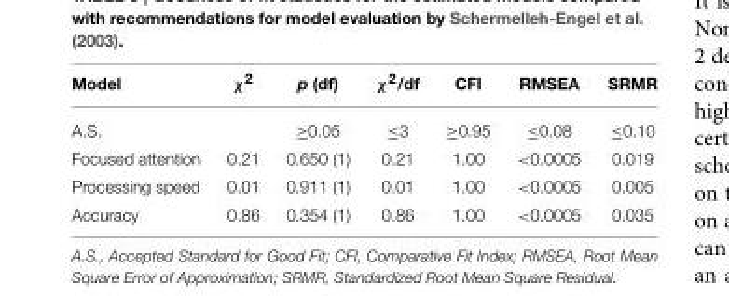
<table><thead><tr><td>Model</td><td>χ<sup>2</sup></td><td>p (df)</td><td>χ<sup>2</sup>/df</td><td>CFI</td><td>RMSEA</td><td>SRMR</td></tr></thead><tbody><tr><td>A.S.</td><td></td><td>≥0.05</td><td>≤3</td><td>≥0.95</td><td>≤0.08</td><td>≤0.10</td></tr><tr><td>Focused attention</td><td>0.21</td><td>0.650 (1)</td><td>0.21</td><td>1.00</td><td>&lt;0.0005</td><td>0.019</td></tr><tr><td>Processing speed</td><td>0.01</td><td>0.911 (1)</td><td>0.01</td><td>1.00</td><td>&lt;0.0005</td><td>0.005</td></tr><tr><td>Accuracy</td><td>0.86</td><td>0.354 (1)</td><td>0.86</td><td>1.00</td><td>&lt;0.0005</td><td>0.035</td></tr></tbody></table>